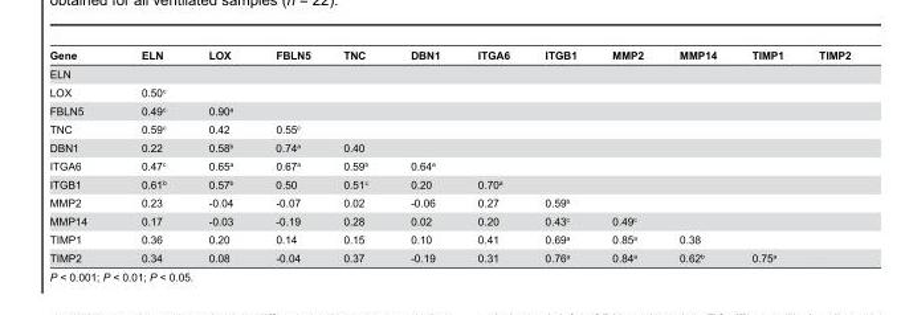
<table><thead><tr><td>Gene</td><td>ELN</td><td>LOX</td><td>FBLN5</td><td>TNC</td><td>DBN1</td><td>ITGA6</td><td>ITGB1</td><td>MMP2</td><td>MMP14</td><td>TIMP1</td><td>TIMP2</td></tr></thead><tbody><tr><td colspan="12">ELN</td></tr><tr><td>LOX</td><td>0.50<sup>c</sup></td><td></td><td></td><td></td><td></td><td></td><td></td><td></td><td></td><td></td><td></td></tr><tr><td>FBLN5</td><td>0.49<sup>c</sup></td><td>0.90<sup>a</sup></td><td></td><td></td><td></td><td></td><td></td><td></td><td></td><td></td><td></td></tr><tr><td>TNC</td><td>0.59<sup>c</sup></td><td>0.42</td><td>0.55<sup>c</sup></td><td></td><td></td><td></td><td></td><td></td><td></td><td></td><td></td></tr><tr><td>DBN1</td><td>0.22</td><td>0.58<sup>b</sup></td><td>0.74<sup>a</sup></td><td>0.40</td><td></td><td></td><td></td><td></td><td></td><td></td><td></td></tr><tr><td>ITGA6</td><td>0.47<sup>c</sup></td><td>0.65<sup>a</sup></td><td>0.67<sup>a</sup></td><td>0.59<sup>b</sup></td><td>0.64<sup>a</sup></td><td></td><td></td><td></td><td></td><td></td><td></td></tr><tr><td>ITGB1</td><td>0.61<sup>b</sup></td><td>0.57<sup>b</sup></td><td>0.50</td><td>0.51<sup>c</sup></td><td>0.20</td><td>0.70<sup>a</sup></td><td></td><td></td><td></td><td></td><td></td></tr><tr><td>MMP2</td><td>0.23</td><td>-0.04</td><td>-0.07</td><td>0.02</td><td>-0.06</td><td>0.27</td><td>0.59<sup>b</sup></td><td></td><td></td><td></td><td></td></tr><tr><td>MMP14</td><td>0.17</td><td>-0.03</td><td>-0.19</td><td>0.28</td><td>0.02</td><td>0.20</td><td>0.43<sup>c</sup></td><td>0.49<sup>c</sup></td><td></td><td></td><td></td></tr><tr><td>TIMP1</td><td>0.36</td><td>0.20</td><td>0.14</td><td>0.15</td><td>0.10</td><td>0.41</td><td>0.69<sup>a</sup></td><td>0.85<sup>a</sup></td><td>0.38</td><td></td><td></td></tr><tr><td>TIMP2</td><td>0.34</td><td>0.08</td><td>-0.04</td><td>0.37</td><td>-0.19</td><td>0.31</td><td>0.76<sup>a</sup></td><td>0.84<sup>a</sup></td><td>0.62<sup>b</sup></td><td>0.75<sup>a</sup></td><td></td></tr></tbody></table>